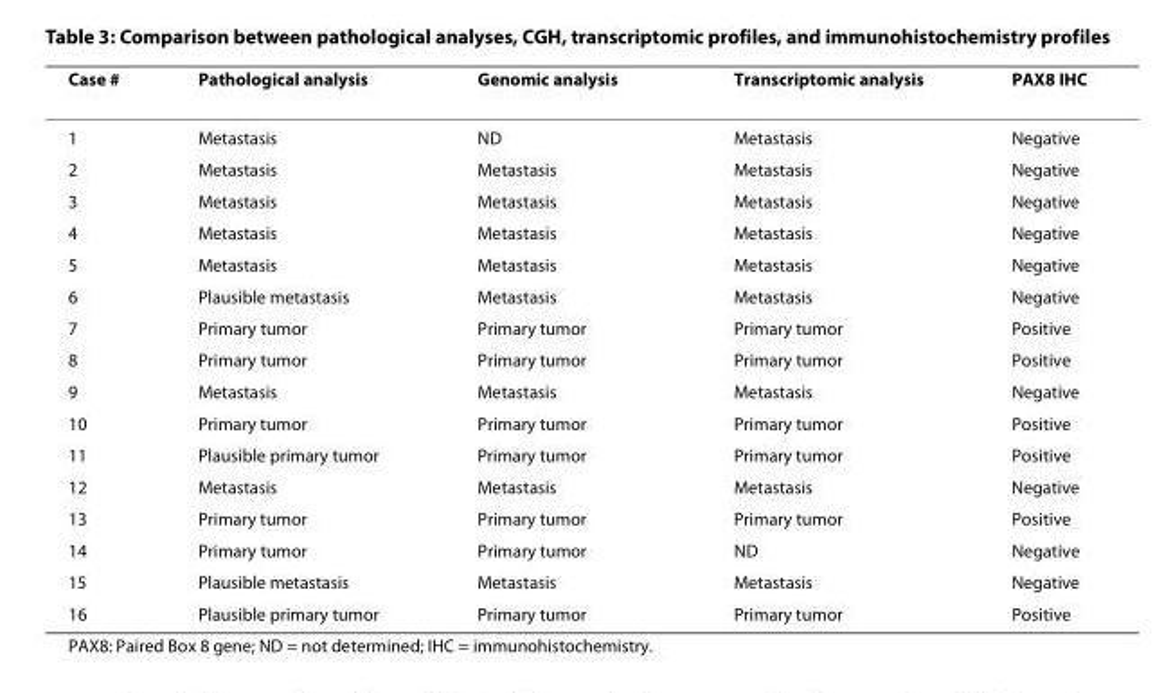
<table><thead><tr><td>Case #</td><td>Pathological analysis</td><td>Genomic analysis</td><td>Transcriptomic analysis</td><td>PAX8 IHC</td></tr></thead><tbody><tr><td>1</td><td>Metastasis</td><td>ND</td><td>Metastasis</td><td>Negative</td></tr><tr><td>2</td><td>Metastasis</td><td>Metastasis</td><td>Metastasis</td><td>Negative</td></tr><tr><td>3</td><td>Metastasis</td><td>Metastasis</td><td>Metastasis</td><td>Negative</td></tr><tr><td>4</td><td>Metastasis</td><td>Metastasis</td><td>Metastasis</td><td>Negative</td></tr><tr><td>5</td><td>Metastasis</td><td>Metastasis</td><td>Metastasis</td><td>Negative</td></tr><tr><td>6</td><td>Plausible metastasis</td><td>Metastasis</td><td>Metastasis</td><td>Negative</td></tr><tr><td>7</td><td>Primary tumor</td><td>Primary tumor</td><td>Primary tumor</td><td>Positive</td></tr><tr><td>8</td><td>Primary tumor</td><td>Primary tumor</td><td>Primary tumor</td><td>Positive</td></tr><tr><td>9</td><td>Metastasis</td><td>Metastasis</td><td>Metastasis</td><td>Negative</td></tr><tr><td>10</td><td>Primary tumor</td><td>Primary tumor</td><td>Primary tumor</td><td>Positive</td></tr><tr><td>11</td><td>Plausible primary tumor</td><td>Primary tumor</td><td>Primary tumor</td><td>Positive</td></tr><tr><td>12</td><td>Metastasis</td><td>Metastasis</td><td>Metastasis</td><td>Negative</td></tr><tr><td>13</td><td>Primary tumor</td><td>Primary tumor</td><td>Primary tumor</td><td>Positive</td></tr><tr><td>14</td><td>Primary tumor</td><td>Primary tumor</td><td>ND</td><td>Negative</td></tr><tr><td>15</td><td>Plausible metastasis</td><td>Metastasis</td><td>Metastasis</td><td>Negative</td></tr><tr><td>16</td><td>Plausible primary tumor</td><td>Primary tumor</td><td>Primary tumor</td><td>Positive</td></tr></tbody></table>